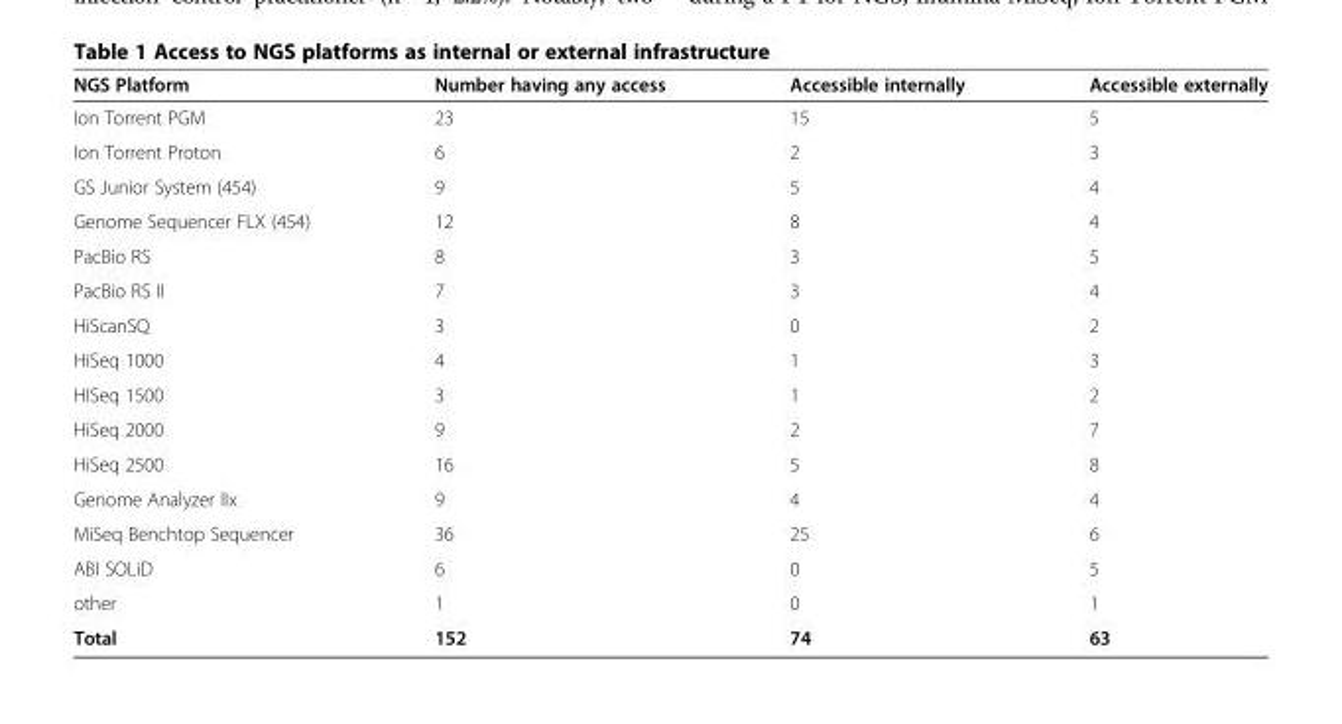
<table><thead><tr><td>NGS Platform</td><td>Number having any access</td><td>Accessible internally</td><td>Accessible externally</td></tr></thead><tbody><tr><td>Ion Torrent PGM</td><td>23</td><td>15</td><td>5</td></tr><tr><td>Ion Torrent Proton</td><td>6</td><td>2</td><td>3</td></tr><tr><td>GS Junior System (454)</td><td>9</td><td>5</td><td>4</td></tr><tr><td>Genome Sequencer FLX (454)</td><td>12</td><td>8</td><td>4</td></tr><tr><td>PacBio RS</td><td>8</td><td>3</td><td>5</td></tr><tr><td>PacBio RS II</td><td>7</td><td>3</td><td>4</td></tr><tr><td>HiScanSQ</td><td>3</td><td>0</td><td>2</td></tr><tr><td>HiSeq 1000</td><td>4</td><td>1</td><td>3</td></tr><tr><td>HISeq 1500</td><td>3</td><td>1</td><td>2</td></tr><tr><td>HiSeq 2000</td><td>9</td><td>2</td><td>7</td></tr><tr><td>HiSeq 2500</td><td>16</td><td>5</td><td>8</td></tr><tr><td>Genome Analyzer lIx</td><td>9</td><td>4</td><td>4</td></tr><tr><td>MiSeq Benchtop Sequencer</td><td>36</td><td>25</td><td>6</td></tr><tr><td>ABI SOLiD</td><td>6</td><td>0</td><td>5</td></tr><tr><td>other</td><td>1</td><td>0</td><td>1</td></tr><tr><td>Total</td><td>152</td><td>74</td><td>63</td></tr></tbody></table>